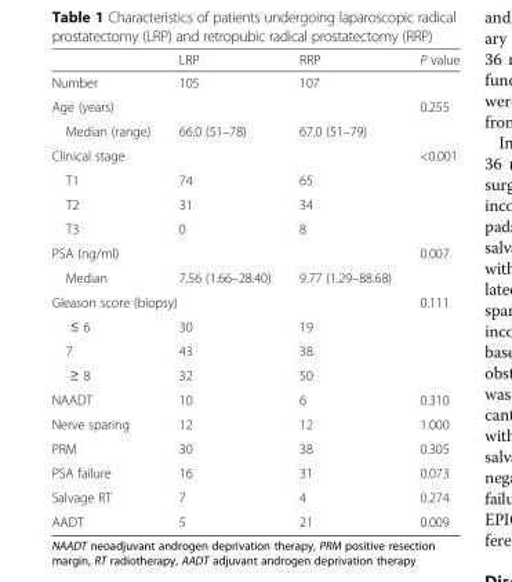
<table><thead><tr><td></td><td>LRP</td><td>RRP</td><td>P value</td></tr></thead><tbody><tr><td>Number</td><td>105</td><td>107</td><td></td></tr><tr><td>Age (years)</td><td></td><td></td><td>0.255</td></tr><tr><td>Median (range)</td><td>66.0 (51–78)</td><td>67.0 (51–79)</td><td></td></tr><tr><td>Clinical stage</td><td></td><td></td><td>&lt;0.001</td></tr><tr><td>T1</td><td>74</td><td>65</td><td></td></tr><tr><td>T2</td><td>31</td><td>34</td><td></td></tr><tr><td>T3</td><td>0</td><td>8</td><td></td></tr><tr><td>PSA (ng/ml)</td><td></td><td></td><td>0.007</td></tr><tr><td>Median</td><td>7.56 (1.66–28.40)</td><td>9.77 (1.29–88.68)</td><td></td></tr><tr><td colspan="2">Gleason score (biopsy)</td><td></td><td>0.111</td></tr><tr><td>≤ 6</td><td>30</td><td>19</td><td></td></tr><tr><td>7</td><td>43</td><td>38</td><td></td></tr><tr><td>≥ 8</td><td>32</td><td>50</td><td></td></tr><tr><td>NAADT</td><td>10</td><td>6</td><td>0.310</td></tr><tr><td>Nerve sparing</td><td>12</td><td>12</td><td>1.000</td></tr><tr><td>PRM</td><td>30</td><td>38</td><td>0.305</td></tr><tr><td>PSA failure</td><td>16</td><td>31</td><td>0.073</td></tr><tr><td>Salvage RT</td><td>7</td><td>4</td><td>0.274</td></tr><tr><td>AADT</td><td>5</td><td>21</td><td>0.009</td></tr></tbody></table>